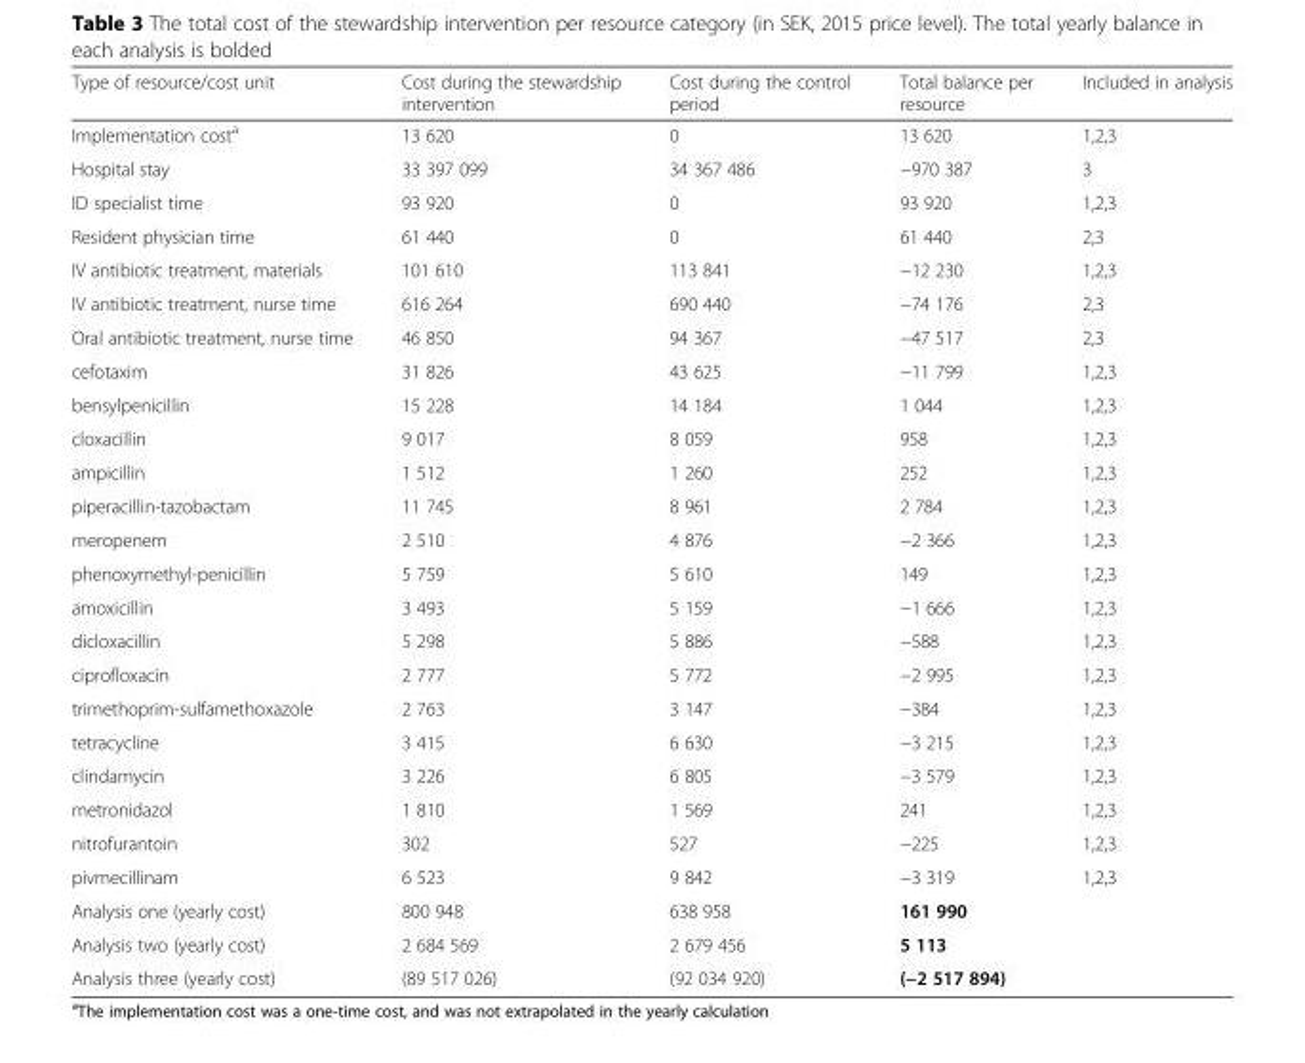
<table><thead><tr><td>Type of resource/cost unit</td><td>Cost during the stewardship intervention</td><td>Cost during the control period</td><td>Total balance per resource</td><td>Included in analysis</td></tr></thead><tbody><tr><td>Implementation cost<sup>a</sup></td><td>13 620</td><td>0</td><td>13 620</td><td>1,2,3</td></tr><tr><td>Hospital stay</td><td>33 397 099</td><td>34 367 486</td><td>−970 387</td><td>3</td></tr><tr><td>ID specialist time</td><td>93 920</td><td>0</td><td>93 920</td><td>1,2,3</td></tr><tr><td>Resident physician time</td><td>61 440</td><td>0</td><td>61 440</td><td>2,3</td></tr><tr><td>IV antibiotic treatment, materials</td><td>101 610</td><td>113 841</td><td>−12 230</td><td>1,2,3</td></tr><tr><td>IV antibiotic treatment, nurse time</td><td>616 264</td><td>690 440</td><td>−74 176</td><td>2,3</td></tr><tr><td>Oral antibiotic treatment, nurse time</td><td>46 850</td><td>94 367</td><td>−47 517</td><td>2,3</td></tr><tr><td>cefotaxim</td><td>31 826</td><td>43 625</td><td>−11 799</td><td>1,2,3</td></tr><tr><td>bensylpenicillin</td><td>15 228</td><td>14 184</td><td>1 044</td><td>1,2,3</td></tr><tr><td>cloxacillin</td><td>9 017</td><td>8 059</td><td>958</td><td>1,2,3</td></tr><tr><td>ampicillin</td><td>1 512</td><td>1 260</td><td>252</td><td>1,2,3</td></tr><tr><td>piperacillin-tazobactam</td><td>11 745</td><td>8 961</td><td>2 784</td><td>1,2,3</td></tr><tr><td>meropenem</td><td>2 510</td><td>4 876</td><td>−2 366</td><td>1,2,3</td></tr><tr><td>phenoxymethyl-penicillin</td><td>5 759</td><td>5 610</td><td>149</td><td>1,2,3</td></tr><tr><td>amoxicillin</td><td>3 493</td><td>5 159</td><td>−1 666</td><td>1,2,3</td></tr><tr><td>dicloxacillin</td><td>5 298</td><td>5 886</td><td>−588</td><td>1,2,3</td></tr><tr><td>ciprofloxacin</td><td>2 777</td><td>5 772</td><td>−2 995</td><td>1,2,3</td></tr><tr><td>trimethoprim-sulfamethoxazole</td><td>2 763</td><td>3 147</td><td>−384</td><td>1,2,3</td></tr><tr><td>tetracycline</td><td>3 415</td><td>6 630</td><td>−3 215</td><td>1,2,3</td></tr><tr><td>clindamycin</td><td>3 226</td><td>6 805</td><td>−3 579</td><td>1,2,3</td></tr><tr><td>metronidazol</td><td>1 810</td><td>1 569</td><td>241</td><td>1,2,3</td></tr><tr><td>nitrofurantoin</td><td>302</td><td>527</td><td>−225</td><td>1,2,3</td></tr><tr><td>pivmecillinam</td><td>6 523</td><td>9 842</td><td>−3 319</td><td>1,2,3</td></tr><tr><td>Analysis one (yearly cost)</td><td>800 948</td><td>638 958</td><td>161 990</td><td></td></tr><tr><td>Analysis two (yearly cost)</td><td>2 684 569</td><td>2 679 456</td><td>5 113</td><td></td></tr><tr><td>Analysis three (yearly cost)</td><td>(89 517 026)</td><td>(92 034 920)</td><td>(−2 517 894)</td><td></td></tr></tbody></table>